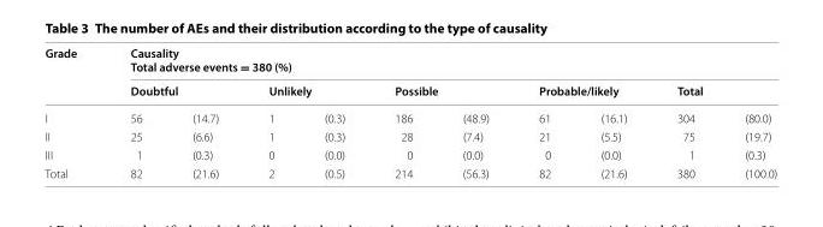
<table><thead><tr><td rowspan="3">Grade I</td><td colspan="10">Causality Total adverse events = 380 (%)</td></tr><tr><td colspan="2">Doubtful</td><td colspan="2">Unlikely</td><td colspan="2">Possible</td><td colspan="2">Probable/likely</td><td colspan="2">Total</td></tr><tr><td>56</td><td>(14.7)</td><td>1</td><td>(0.3)</td><td>186</td><td>(48.9)</td><td>61</td><td>(16.1)</td><td>304</td><td>(80.0)</td></tr></thead><tbody><tr><td>II</td><td>25</td><td>(6.6)</td><td>1</td><td>(0.3)</td><td>28</td><td>(7.4)</td><td>21</td><td>(5.5)</td><td>75</td><td>(19.7)</td></tr><tr><td>III</td><td>1</td><td>(0.3)</td><td>0</td><td>(0.0)</td><td>0</td><td>(0.0)</td><td>0</td><td>(0.0)</td><td>1</td><td>(0.3)</td></tr><tr><td>Total</td><td>82</td><td>(21.6)</td><td>2</td><td>(0.5)</td><td>214</td><td>(56.3)</td><td>82</td><td>(21.6)</td><td>380</td><td>(100.0)</td></tr></tbody></table>